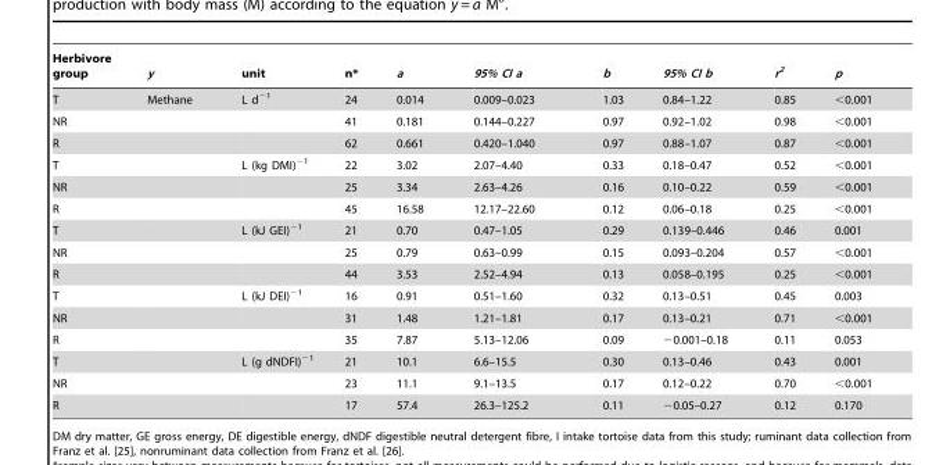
<table><thead><tr><td>Herbivore group</td><td>y</td><td>unit</td><td>n*</td><td>a</td><td>95% CI a</td><td>b</td><td>95% CI b</td><td>r<sup>2</sup></td><td>p</td></tr></thead><tbody><tr><td>T</td><td>Methane</td><td>L d<sup>−1</sup></td><td>24</td><td>0.014</td><td>0.009–0.023</td><td>1.03</td><td>0.84–1.22</td><td>0.85</td><td>&lt;0.001</td></tr><tr><td>NR</td><td></td><td></td><td>41</td><td>0.181</td><td>0.144–0.227</td><td>0.97</td><td>0.92–1.02</td><td>0.98</td><td>&lt;0.001</td></tr><tr><td>R</td><td></td><td></td><td>62</td><td>0.661</td><td>0.420–1.040</td><td>0.97</td><td>0.88–1.07</td><td>0.87</td><td>&lt;0.001</td></tr><tr><td>T</td><td></td><td>L (kg DMI)<sup>−1</sup></td><td>22</td><td>3.02</td><td>2.07–4.40</td><td>0.33</td><td>0.18–0.47</td><td>0.52</td><td>&lt;0.001</td></tr><tr><td>NR</td><td></td><td></td><td>25</td><td>3.34</td><td>2.63–4.26</td><td>0.16</td><td>0.10–0.22</td><td>0.59</td><td>&lt;0.001</td></tr><tr><td>R</td><td></td><td></td><td>45</td><td>16.58</td><td>12.17–22.60</td><td>0.12</td><td>0.06–0.18</td><td>0.25</td><td>&lt;0.001</td></tr><tr><td>T</td><td></td><td>L (kJ GEI)<sup>−1</sup></td><td>21</td><td>0.70</td><td>0.47–1.05</td><td>0.29</td><td>0.139–0.446</td><td>0.46</td><td>0.001</td></tr><tr><td>NR</td><td></td><td></td><td>25</td><td>0.79</td><td>0.63–0.99</td><td>0.15</td><td>0.093–0.204</td><td>0.57</td><td>&lt;0.001</td></tr><tr><td>R</td><td></td><td></td><td>44</td><td>3.53</td><td>2.52–4.94</td><td>0.13</td><td>0.058–0.195</td><td>0.25</td><td>&lt;0.001</td></tr><tr><td>T</td><td></td><td>L (kJ DEI)<sup>−1</sup></td><td>16</td><td>0.91</td><td>0.51–1.60</td><td>0.32</td><td>0.13–0.51</td><td>0.45</td><td>0.003</td></tr><tr><td>NR</td><td></td><td></td><td>31</td><td>1.48</td><td>1.21–1.81</td><td>0.17</td><td>0.13–0.21</td><td>0.71</td><td>&lt;0.001</td></tr><tr><td>R</td><td></td><td></td><td>35</td><td>7.87</td><td>5.13–12.06</td><td>0.09</td><td>−0.001–0.18</td><td>0.11</td><td>0.053</td></tr><tr><td>T</td><td></td><td>L (g dNDFI)<sup>−1</sup></td><td>21</td><td>10.1</td><td>6.6–15.5</td><td>0.30</td><td>0.13–0.46</td><td>0.43</td><td>0.001</td></tr><tr><td>NR</td><td></td><td></td><td>23</td><td>11.1</td><td>9.1–13.5</td><td>0.17</td><td>0.12–0.22</td><td>0.70</td><td>&lt;0.001</td></tr><tr><td>R</td><td></td><td></td><td>17</td><td>57.4</td><td>26.3–125.2</td><td>0.11</td><td>−0.05–0.27</td><td>0.12</td><td>0.170</td></tr></tbody></table>